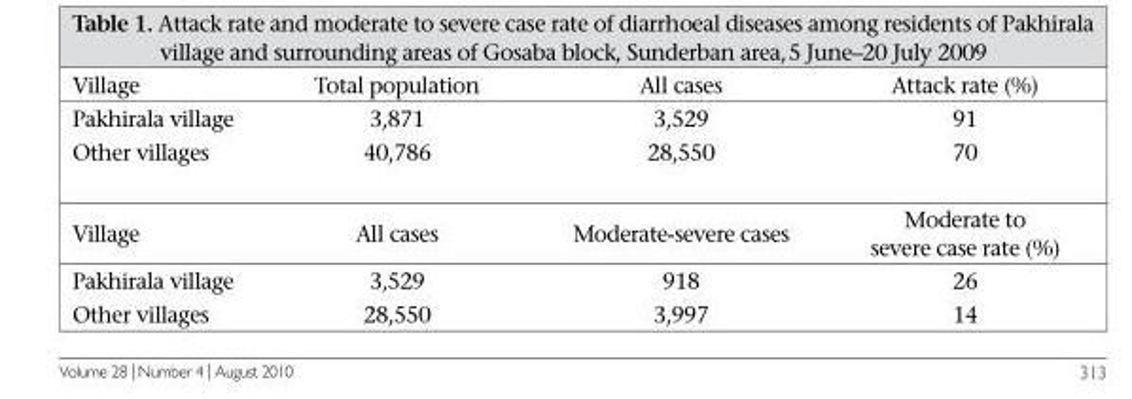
<table><thead><tr><td>Village</td><td>Total population</td><td>All cases</td><td>Attack rate (%)</td></tr></thead><tbody><tr><td>Pakhirala village</td><td>3,871</td><td>3,529</td><td>91</td></tr><tr><td>Other villages</td><td>40,786</td><td>28,550</td><td>70</td></tr><tr><td>Village</td><td>All cases</td><td>Moderate-severe cases</td><td>Moderate to severe case rate (%)</td></tr><tr><td>Pakhirala village</td><td>3,529</td><td>918</td><td>26</td></tr><tr><td>Other villages</td><td>28,550</td><td>3,997</td><td>14</td></tr></tbody></table>